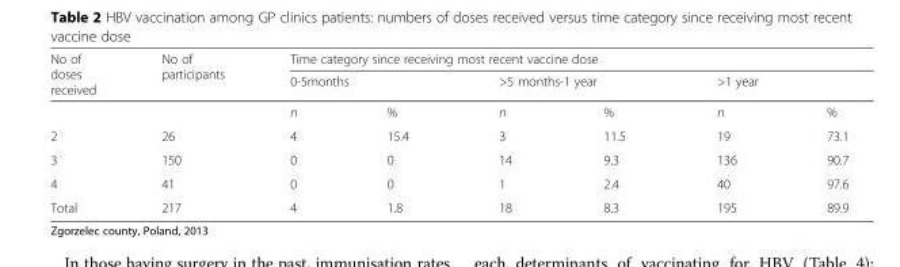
<table><thead><tr><td rowspan="3">No of doses received</td><td rowspan="3">No of participants</td><td colspan="6">Time category since receiving most recent vaccine dose</td></tr><tr><td colspan="2">0-5months</td><td colspan="2">&gt;5 months-1 year</td><td colspan="2">&gt;1 year</td></tr><tr><td>n</td><td>%</td><td>n</td><td>%</td><td>n</td><td>%</td></tr></thead><tbody><tr><td>2</td><td>26</td><td>4</td><td>15.4</td><td>3</td><td>11.5</td><td>19</td><td>73.1</td></tr><tr><td>3</td><td>150</td><td>0</td><td>0</td><td>14</td><td>9.3</td><td>136</td><td>90.7</td></tr><tr><td>4</td><td>41</td><td>0</td><td>0</td><td>1</td><td>2.4</td><td>40</td><td>97.6</td></tr><tr><td>Total</td><td>217</td><td>4</td><td>1.8</td><td>18</td><td>8.3</td><td>195</td><td>89.9</td></tr></tbody></table>